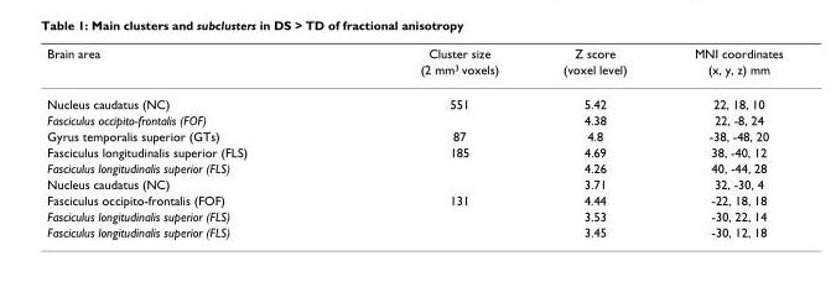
<table><thead><tr><td rowspan="2">Brain area</td><td rowspan="2">Cluster size (2 mm<sup>3</sup> voxels)</td><td rowspan="2">Z score (voxel level)</td><td rowspan="2">MNI coordinates (x, y, z) mm</td></tr><tr></tr></thead><tbody><tr><td>Nucleus caudatus (NC)</td><td>551</td><td>5.42</td><td>22, 18, 10</td></tr><tr><td>Fasciculus occipito-frontalis (FOF)</td><td></td><td>4.38</td><td>22, -8, 24</td></tr><tr><td>Gyrus temporalis superior (GTs)</td><td>87</td><td>4.8</td><td>-38, -48, 20</td></tr><tr><td>Fasciculus longitudinalis superior (FLS)</td><td>185</td><td>4.69</td><td>38, -40, 12</td></tr><tr><td>Fasciculus longitudinalis superior (FLS)</td><td></td><td>4.26</td><td>40, -44, 28</td></tr><tr><td>Nucleus caudatus (NC)</td><td></td><td>3.71</td><td>32, -30, 4</td></tr><tr><td>Fasciculus occipito-frontalis (FOF)</td><td>131</td><td>4.44</td><td>-22, 18, 18</td></tr><tr><td>Fasciculus longitudinalis superior (FLS)</td><td></td><td>3.53</td><td>-30, 22, 14</td></tr><tr><td>Fasciculus longitudinalis superior (FLS)</td><td></td><td>3.45</td><td>-30, 12, 18</td></tr></tbody></table>